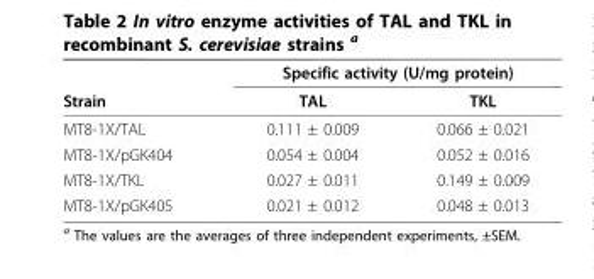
<table><thead><tr><td rowspan="2">Strain</td><td colspan="2">Specific activity (U/mg protein)</td></tr><tr><td>TAL</td><td>TKL</td></tr></thead><tbody><tr><td>MT8-1X/TAL</td><td>0.111 ± 0.009</td><td>0.066 ± 0.021</td></tr><tr><td>MT8-1X/pGK404</td><td>0.054 ± 0.004</td><td>0.052 ± 0.016</td></tr><tr><td>MT8-1X/TKL</td><td>0.027 ± 0.011</td><td>0.149 ± 0.009</td></tr><tr><td>MT8-1X/pGK405</td><td>0.021 ± 0.012</td><td>0.048 ± 0.013</td></tr></tbody></table>